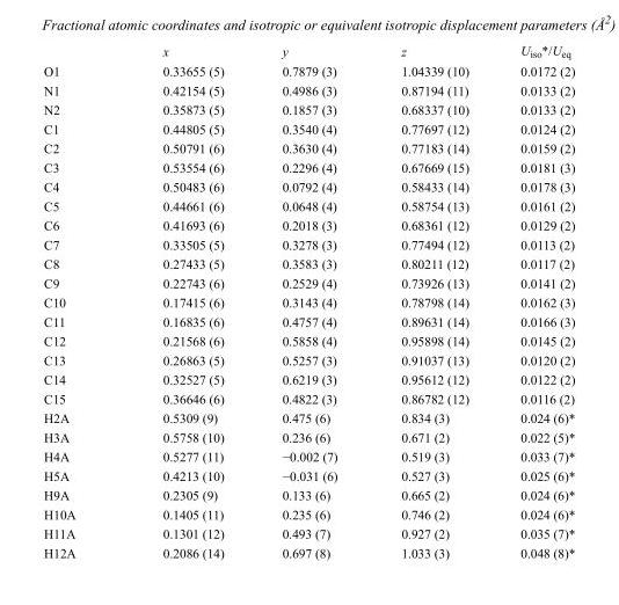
<table><thead><tr><td></td><td>x</td><td>y</td><td>z</td><td>U<sub>iso</sub>*/U<sub>eq</sub></td></tr></thead><tbody><tr><td>O1</td><td>0.33655 (5)</td><td>0.7879 (3)</td><td>1.04339 (10)</td><td>0.0172 (2)</td></tr><tr><td>N1</td><td>0.42154 (5)</td><td>0.4986 (3)</td><td>0.87194 (11)</td><td>0.0133 (2)</td></tr><tr><td>N2</td><td>0.35873 (5)</td><td>0.1857 (3)</td><td>0.68337 (10)</td><td>0.0133 (2)</td></tr><tr><td>C1</td><td>0.44805 (5)</td><td>0.3540 (4)</td><td>0.77697 (12)</td><td>0.0124 (2)</td></tr><tr><td>C2</td><td>0.50791 (6)</td><td>0.3630 (4)</td><td>0.77183 (14)</td><td>0.0159 (2)</td></tr><tr><td>C3</td><td>0.53554 (6)</td><td>0.2296 (4)</td><td>0.67669 (15)</td><td>0.0181 (3)</td></tr><tr><td>C4</td><td>0.50483 (6)</td><td>0.0792 (4)</td><td>0.58433 (14)</td><td>0.0178 (3)</td></tr><tr><td>C5</td><td>0.44661 (6)</td><td>0.0648 (4)</td><td>0.58754 (13)</td><td>0.0161 (2)</td></tr><tr><td>C6</td><td>0.41693 (6)</td><td>0.2018 (3)</td><td>0.68361 (12)</td><td>0.0129 (2)</td></tr><tr><td>C7</td><td>0.33505 (5)</td><td>0.3278 (3)</td><td>0.77494 (12)</td><td>0.0113 (2)</td></tr><tr><td>C8</td><td>0.27433 (5)</td><td>0.3583 (3)</td><td>0.80211 (12)</td><td>0.0117 (2)</td></tr><tr><td>C9</td><td>0.22743 (6)</td><td>0.2529 (4)</td><td>0.73926 (13)</td><td>0.0141 (2)</td></tr><tr><td>C10</td><td>0.17415 (6)</td><td>0.3143 (4)</td><td>0.78798 (14)</td><td>0.0162 (3)</td></tr><tr><td>C11</td><td>0.16835 (6)</td><td>0.4757 (4)</td><td>0.89631 (14)</td><td>0.0166 (3)</td></tr><tr><td>C12</td><td>0.21568 (6)</td><td>0.5858 (4)</td><td>0.95898 (14)</td><td>0.0145 (2)</td></tr><tr><td>C13</td><td>0.26863 (5)</td><td>0.5257 (3)</td><td>0.91037 (13)</td><td>0.0120 (2)</td></tr><tr><td>C14</td><td>0.32527 (5)</td><td>0.6219 (3)</td><td>0.95612 (12)</td><td>0.0122 (2)</td></tr><tr><td>C15</td><td>0.36646 (6)</td><td>0.4822 (3)</td><td>0.86782 (12)</td><td>0.0116 (2)</td></tr><tr><td>H2A</td><td>0.5309 (9)</td><td>0.475 (6)</td><td>0.834 (3)</td><td>0.024 (6)*</td></tr><tr><td>H3A</td><td>0.5758 (10)</td><td>0.236 (6)</td><td>0.671 (2)</td><td>0.022 (5)*</td></tr><tr><td>H4A</td><td>0.5277 (11)</td><td>−0.002 (7)</td><td>0.519 (3)</td><td>0.033 (7)*</td></tr><tr><td>H5A</td><td>0.4213 (10)</td><td>−0.031 (6)</td><td>0.527 (3)</td><td>0.025 (6)*</td></tr><tr><td>H9A</td><td>0.2305 (9)</td><td>0.133 (6)</td><td>0.665 (2)</td><td>0.024 (6)*</td></tr><tr><td>H10A</td><td>0.1405 (11)</td><td>0.235 (6)</td><td>0.746 (2)</td><td>0.024 (6)*</td></tr><tr><td>H11A</td><td>0.1301 (12)</td><td>0.493 (7)</td><td>0.927 (2)</td><td>0.035 (7)*</td></tr><tr><td>H12A</td><td>0.2086 (14)</td><td>0.697 (8)</td><td>1.033 (3)</td><td>0.048 (8)*</td></tr></tbody></table>